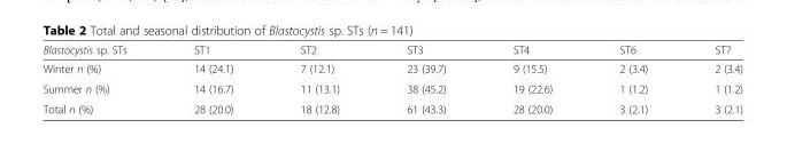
<table><thead><tr><td>Blastocystis sp. STs</td><td>ST1</td><td>ST2</td><td>ST3</td><td>ST4</td><td>ST6</td><td>ST7</td></tr></thead><tbody><tr><td>Winter n (%)</td><td>14 (24.1)</td><td>7 (12.1)</td><td>23 (39.7)</td><td>9 (15.5)</td><td>2 (3.4)</td><td>2 (3.4)</td></tr><tr><td>Summer n (%)</td><td>14 (16.7)</td><td>11 (13.1)</td><td>38 (45.2)</td><td>19 (22.6)</td><td>1 (1.2)</td><td>1 (1.2)</td></tr><tr><td>Total n (%)</td><td>28 (20.0)</td><td>18 (12.8)</td><td>61 (43.3)</td><td>28 (20.0)</td><td>3 (2.1)</td><td>3 (2.1)</td></tr></tbody></table>